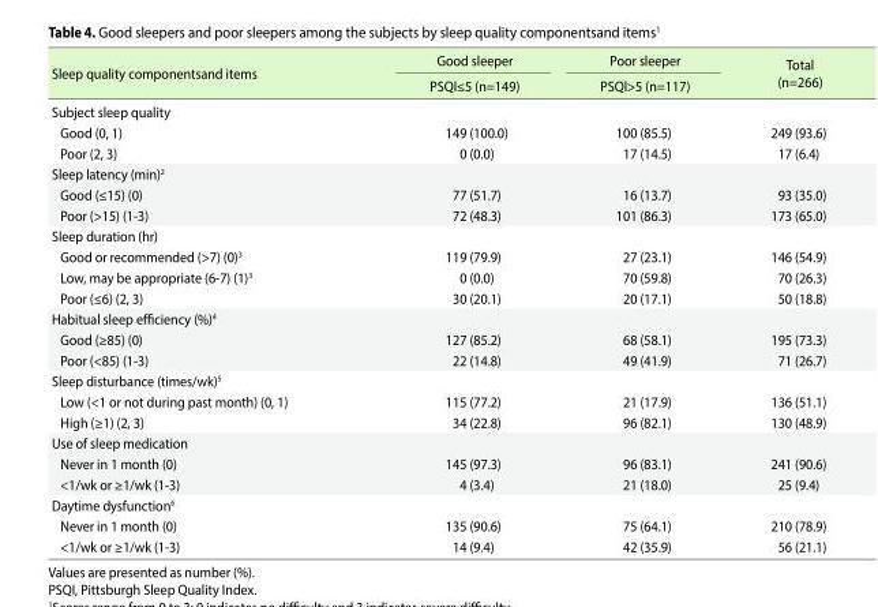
<table><thead><tr><td rowspan="2">Sleep quality componentsand items</td><td rowspan="2">Good sleeper PSQI≤5 (n=149)</td><td rowspan="2">Poor sleeper PSQI&gt;5 (n=117)</td><td rowspan="2">Total (n=266)</td></tr><tr></tr></thead><tbody><tr><td colspan="4">Subject sleep quality</td></tr><tr><td>Good (0, 1)</td><td>149 (100.0)</td><td>100 (85.5)</td><td>249 (93.6)</td></tr><tr><td>Poor (2, 3)</td><td>0 (0.0)</td><td>17 (14.5)</td><td>17 (6.4)</td></tr><tr><td colspan="4">Sleep latency (min)<sup>2</sup></td></tr><tr><td>Good (≤15) (0)</td><td>77 (51.7)</td><td>16 (13.7)</td><td>93 (35.0)</td></tr><tr><td>Poor (&gt;15) (1-3)</td><td>72 (48.3)</td><td>101 (86.3)</td><td>173 (65.0)</td></tr><tr><td colspan="4">Sleep duration (hr)</td></tr><tr><td>Good or recommended (&gt;7) (0)<sup>3</sup></td><td>119 (79.9)</td><td>27 (23.1)</td><td>146 (54.9)</td></tr><tr><td>Low, may be appropriate (6-7) (1)<sup>3</sup></td><td>0 (0.0)</td><td>70 (59.8)</td><td>70 (26.3)</td></tr><tr><td>Poor (≤6) (2, 3)</td><td>30 (20.1)</td><td>20 (17.1)</td><td>50 (18.8)</td></tr><tr><td colspan="4">Habitual sleep efficiency (%)<sup>4</sup></td></tr><tr><td>Good (≥85) (0)</td><td>127 (85.2)</td><td>68 (58.1)</td><td>195 (73.3)</td></tr><tr><td>Poor (&lt;85) (1-3)</td><td>22 (14.8)</td><td>49 (41.9)</td><td>71 (26.7)</td></tr><tr><td colspan="4">Sleep disturbance (times/wk)<sup>5</sup></td></tr><tr><td>Low (&lt;1 or not during past month) (0, 1)</td><td>115 (77.2)</td><td>21 (17.9)</td><td>136 (51.1)</td></tr><tr><td>High (≥1) (2, 3)</td><td>34 (22.8)</td><td>96 (82.1)</td><td>130 (48.9)</td></tr><tr><td colspan="4">Use of sleep medication</td></tr><tr><td>Never in 1 month (0)</td><td>145 (97.3)</td><td>96 (83.1)</td><td>241 (90.6)</td></tr><tr><td>&lt;1/wk or ≥1/wk (1-3)</td><td>4 (3.4)</td><td>21 (18.0)</td><td>25 (9.4)</td></tr><tr><td colspan="4">Daytime dysfunction<sup>6</sup></td></tr><tr><td>Never in 1 month (0)</td><td>135 (90.6)</td><td>75 (64.1)</td><td>210 (78.9)</td></tr><tr><td>&lt;1/wk or ≥1/wk (1-3)</td><td>14 (9.4)</td><td>42 (35.9)</td><td>56 (21.1)</td></tr></tbody></table>